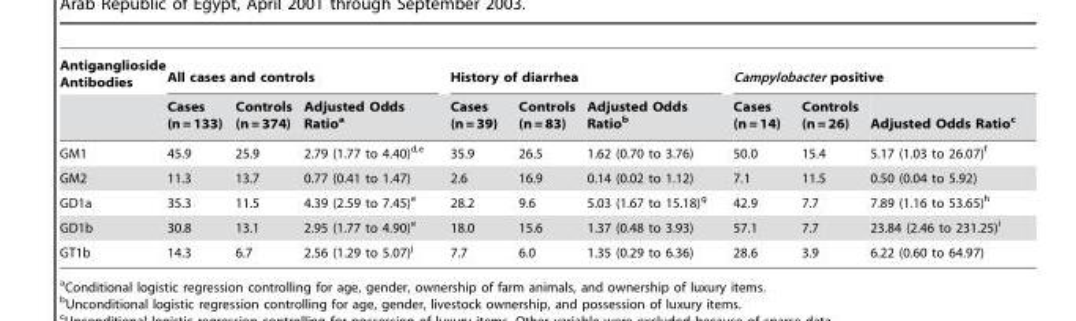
<table><thead><tr><td rowspan="2">Antiganglioside Antibodies</td><td colspan="3">All cases and controls</td><td colspan="3">History of diarrhea</td><td colspan="3">Campylobacter positive</td></tr><tr><td>Cases (n = 133)</td><td>Controls (n = 374)</td><td>Adjusted Odds Ratio<sup>a</sup></td><td>Cases (n = 39)</td><td>Controls (n = 83)</td><td>Adjusted Odds Ratio<sup>b</sup></td><td>Cases (n = 14)</td><td>Controls (n = 26)</td><td>Adjusted Odds Ratio<sup>c</sup></td></tr></thead><tbody><tr><td>GM1</td><td>45.9</td><td>25.9</td><td>2.79 (1.77 to 4.40)<sup>d,</sup>e</td><td>35.9</td><td>26.5</td><td>1.62 (0.70 to 3.76)</td><td>50.0</td><td>15.4</td><td>5.17 (1.03 to 26.07)<sup>f</sup></td></tr><tr><td>GM2</td><td>11.3</td><td>13.7</td><td>0.77 (0.41 to 1.47)</td><td>2.6</td><td>16.9</td><td>0.14 (0.02 to 1.12)</td><td>7.1</td><td>11.5</td><td>0.50 (0.04 to 5.92)</td></tr><tr><td>GD1a</td><td>35.3</td><td>11.5</td><td>4.39 (2.59 to 7.45)<sup>e</sup></td><td>28.2</td><td>9.6</td><td>5.03 (1.67 to 15.18)<sup>g</sup></td><td>42.9</td><td>7.7</td><td>7.89 (1.16 to 53.65)<sup>h</sup></td></tr><tr><td>GD1b</td><td>30.8</td><td>13.1</td><td>2.95 (1.77 to 4.90)<sup>e</sup></td><td>18.0</td><td>15.6</td><td>1.37 (0.48 to 3.93)</td><td>57.1</td><td>7.7</td><td>23.84 (2.46 to 231.25)<sup>i</sup></td></tr><tr><td>GT1b</td><td>14.3</td><td>6.7</td><td>2.56 (1.29 to 5.07)<sup>j</sup></td><td>7.7</td><td>6.0</td><td>1.35 (0.29 to 6.36)</td><td>28.6</td><td>3.9</td><td>6.22 (0.60 to 64.97)</td></tr></tbody></table>